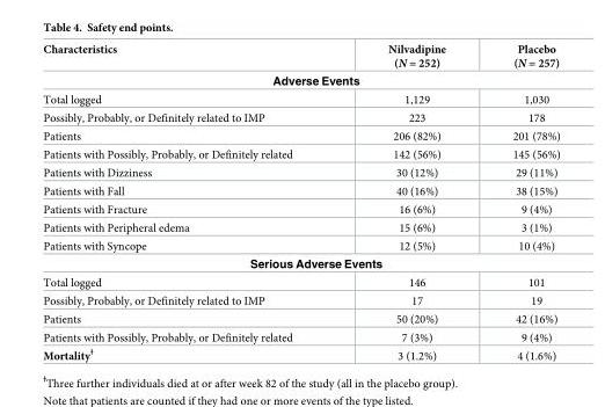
<table><thead><tr><td>Characteristics</td><td>Nilvadipine (N = 252)</td><td>Placebo (N = 257)</td></tr></thead><tbody><tr><td colspan="3">Adverse Events</td></tr><tr><td>Total logged</td><td>1,129</td><td>1,030</td></tr><tr><td>Possibly, Probably, or Definitely related to IMP</td><td>223</td><td>178</td></tr><tr><td>Patients</td><td>206 (82%)</td><td>201 (78%)</td></tr><tr><td>Patients with Possibly, Probably, or Definitely related</td><td>142 (56%)</td><td>145 (56%)</td></tr><tr><td>Patients with Dizziness</td><td>30 (12%)</td><td>29 (11%)</td></tr><tr><td>Patients with Fall</td><td>40 (16%)</td><td>38 (15%)</td></tr><tr><td>Patients with Fracture</td><td>16 (6%)</td><td>9 (4%)</td></tr><tr><td>Patients with Peripheral edema</td><td>15 (6%)</td><td>3 (1%)</td></tr><tr><td>Patients with Syncope</td><td>12 (5%)</td><td>10 (4%)</td></tr><tr><td colspan="3">Serious Adverse Events</td></tr><tr><td>Total logged</td><td>146</td><td>101</td></tr><tr><td>Possibly, Probably, or Definitely related to IMP</td><td>17</td><td>19</td></tr><tr><td>Patients</td><td>50 (20%)</td><td>42 (16%)</td></tr><tr><td>Patients with Possibly, Probably, or Definitely related</td><td>7 (3%)</td><td>9 (4%)</td></tr><tr><td>Mortality<sup>Ɨ</sup></td><td>3 (1.2%)</td><td>4 (1.6%)</td></tr></tbody></table>